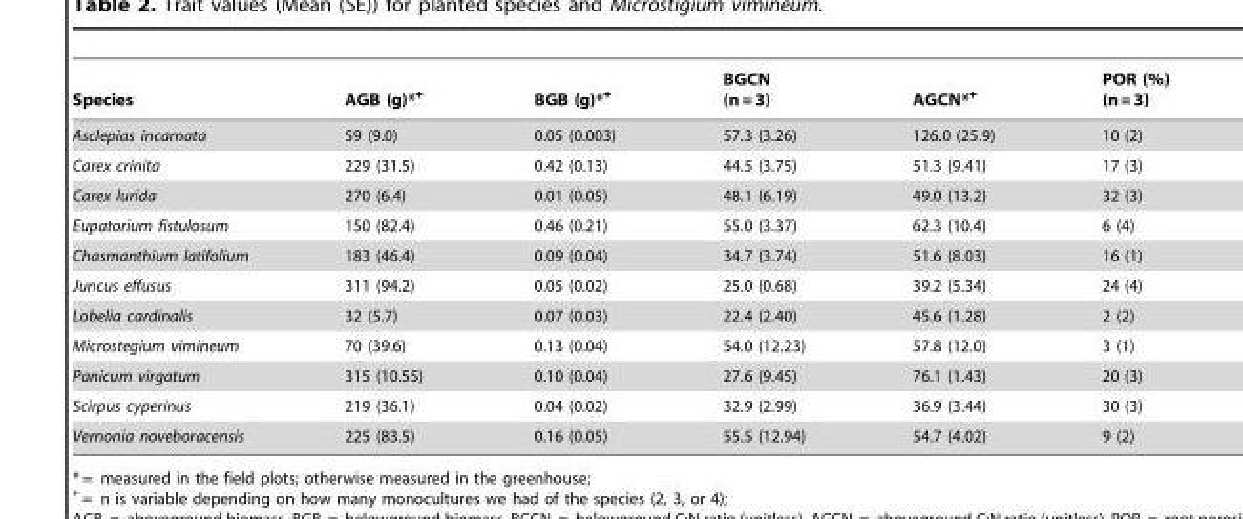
<table><thead><tr><td>Species</td><td>AGB (g)*+</td><td>BGB (g)*+</td><td>BGCN (n = 3)</td><td>AGCN*+</td><td>POR (%) (n = 3)</td></tr></thead><tbody><tr><td>Asclepias incarnata</td><td>59 (9.0)</td><td>0.05 (0.003)</td><td>57.3 (3.26)</td><td>126.0 (25.9)</td><td>10 (2)</td></tr><tr><td>Carex crinita</td><td>229 (31.5)</td><td>0.42 (0.13)</td><td>44.5 (3.75)</td><td>51.3 (9.41)</td><td>17 (3)</td></tr><tr><td>Carex lurida</td><td>270 (6.4)</td><td>0.01 (0.05)</td><td>48.1 (6.19)</td><td>49.0 (13.2)</td><td>32 (3)</td></tr><tr><td>Eupatorium fistulosum</td><td>150 (82.4)</td><td>0.46 (0.21)</td><td>55.0 (3.37)</td><td>62.3 (10.4)</td><td>6 (4)</td></tr><tr><td>Chasmanthium latifolium</td><td>183 (46.4)</td><td>0.09 (0.04)</td><td>34.7 (3.74)</td><td>51.6 (8.03)</td><td>16 (1)</td></tr><tr><td>Juncus effusus</td><td>311 (94.2)</td><td>0.05 (0.02)</td><td>25.0 (0.68)</td><td>39.2 (5.34)</td><td>24 (4)</td></tr><tr><td>Lobelia cardinalis</td><td>32 (5.7)</td><td>0.07 (0.03)</td><td>22.4 (2.40)</td><td>45.6 (1.28)</td><td>2 (2)</td></tr><tr><td>Microstegium vimineum</td><td>70 (39.6)</td><td>0.13 (0.04)</td><td>54.0 (12.23)</td><td>57.8 (12.0)</td><td>3 (1)</td></tr><tr><td>Panicum virgatum</td><td>315 (10.55)</td><td>0.10 (0.04)</td><td>27.6 (9.45)</td><td>76.1 (1.43)</td><td>20 (3)</td></tr><tr><td>Scirpus cyperinus</td><td>219 (36.1)</td><td>0.04 (0.02)</td><td>32.9 (2.99)</td><td>36.9 (3.44)</td><td>30 (3)</td></tr><tr><td>Vernonia noveboracensis</td><td>225 (83.5)</td><td>0.16 (0.05)</td><td>55.5 (12.94)</td><td>54.7 (4.02)</td><td>9 (2)</td></tr></tbody></table>